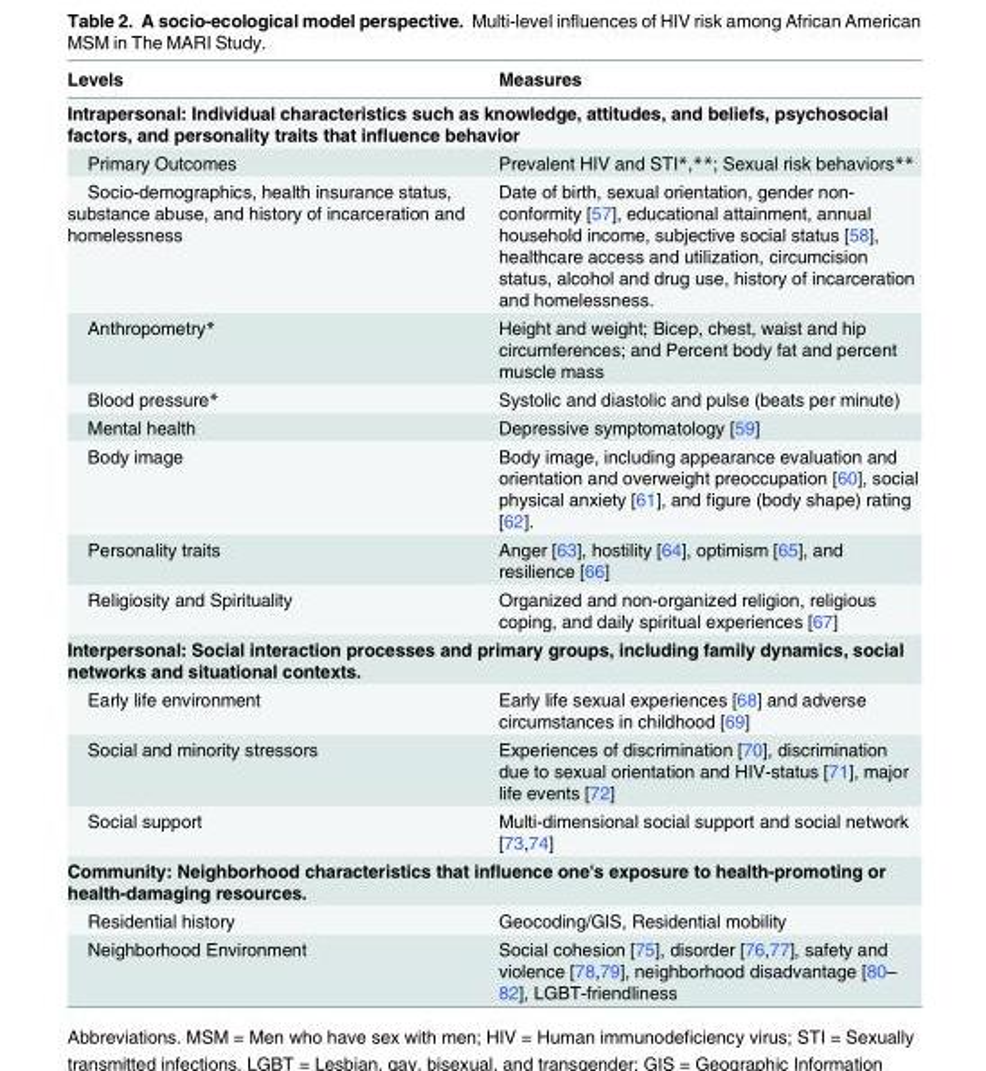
<table><thead><tr><td>Levels</td><td>Measures</td></tr></thead><tbody><tr><td colspan="2">Intrapersonal: Individual characteristics such as knowledge, attitudes, and beliefs, psychosocial factors, and personality traits that influence behavior</td></tr><tr><td>Primary Outcomes</td><td>Prevalent HIV and STI*,**; Sexual risk behaviors**</td></tr><tr><td>Socio-demographics, health insurance status, substance abuse, and history of incarceration and homelessness</td><td>Date of birth, sexual orientation, gender non- conformity [57], educational attainment, annual household income, subjective social status [58], healthcare access and utilization, circumcision status, alcohol and drug use, history of incarceration and homelessness.</td></tr><tr><td>Anthropometry*</td><td>Height and weight; Bicep, chest, waist and hip circumferences; and Percent body fat and percent muscle mass</td></tr><tr><td>Blood pressure*</td><td>Systolic and diastolic and pulse (beats per minute)</td></tr><tr><td>Mental health</td><td>Depressive symptomatology [59]</td></tr><tr><td>Body image</td><td>Body image, including appearance evaluation and orientation and overweight preoccupation [60], social physical anxiety [61], and figure (body shape) rating [62].</td></tr><tr><td>Personality traits</td><td>Anger [63], hostility [64], optimism [65], and resilience [66]</td></tr><tr><td>Religiosity and Spirituality</td><td>Organized and non-organized religion, religious coping, and daily spiritual experiences [67]</td></tr><tr><td colspan="2">Interpersonal: Social interaction processes and primary groups, including family dynamics, social networks and situational contexts.</td></tr><tr><td>Early life environment</td><td>Early life sexual experiences [68] and adverse circumstances in childhood [69]</td></tr><tr><td>Social and minority stressors</td><td>Experiences of discrimination [70], discrimination due to sexual orientation and HIV-status [71], major life events [72]</td></tr><tr><td>Social support</td><td>Multi-dimensional social support and social network [73,74]</td></tr><tr><td colspan="2">Community: Neighborhood characteristics that influence one&#x27;s exposure to health-promoting or health-damaging resources.</td></tr><tr><td>Residential history</td><td>Geocoding/GIS, Residential mobility</td></tr><tr><td>Neighborhood Environment</td><td>Social cohesion [75], disorder [76,77], safety and violence [78,79], neighborhood disadvantage [80– 82], LGBT-friendliness</td></tr></tbody></table>